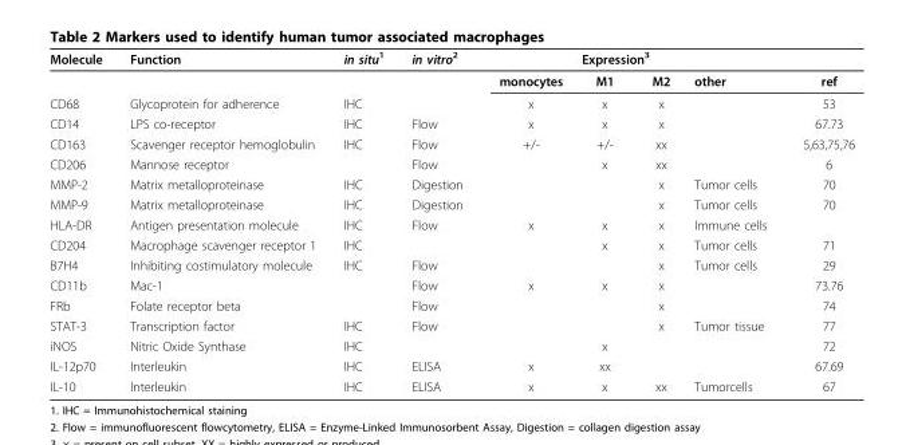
<table><thead><tr><td rowspan="2">Molecule</td><td rowspan="2">Function</td><td rowspan="2">in situ<sup>1</sup></td><td colspan="2">in vitro<sup>2</sup></td><td colspan="2">Expression<sup>3</sup></td><td rowspan="2">other</td><td rowspan="2">ref</td></tr><tr><td></td><td>monocytes</td><td>M1</td><td>M2</td></tr></thead><tbody><tr><td>CD68</td><td>Glycoprotein for adherence</td><td>IHC</td><td></td><td>x</td><td>x</td><td>x</td><td></td><td>53</td></tr><tr><td>CD14</td><td>LPS co-receptor</td><td>IHC</td><td>Flow</td><td>x</td><td>x</td><td>x</td><td></td><td>67.73</td></tr><tr><td>CD163</td><td>Scavenger receptor hemoglobulin</td><td>IHC</td><td>Flow</td><td>+/-</td><td>+/-</td><td>xx</td><td></td><td>5,63,75,76</td></tr><tr><td>CD206</td><td>Mannose receptor</td><td></td><td>Flow</td><td></td><td>x</td><td>xx</td><td></td><td>6</td></tr><tr><td>MMP-2</td><td>Matrix metalloproteinase</td><td>IHC</td><td>Digestion</td><td></td><td></td><td>x</td><td>Tumor cells</td><td>70</td></tr><tr><td>MMP-9</td><td>Matrix metalloproteinase</td><td>IHC</td><td>Digestion</td><td></td><td></td><td>x</td><td>Tumor cells</td><td>70</td></tr><tr><td>HLA-DR</td><td>Antigen presentation molecule</td><td>IHC</td><td>Flow</td><td>x</td><td>x</td><td>x</td><td>Immune cells</td><td></td></tr><tr><td>CD204</td><td>Macrophage scavenger receptor 1</td><td>IHC</td><td></td><td></td><td>x</td><td>x</td><td>Tumor cells</td><td>71</td></tr><tr><td>B7H4</td><td>Inhibiting costimulatory molecule</td><td>IHC</td><td>Flow</td><td></td><td></td><td>x</td><td>Tumor cells</td><td>29</td></tr><tr><td>CD11b</td><td>Mac-1</td><td></td><td>Flow</td><td>x</td><td>x</td><td>x</td><td></td><td>73.76</td></tr><tr><td>FRb</td><td>Folate receptor beta</td><td></td><td>Flow</td><td></td><td></td><td>x</td><td></td><td>74</td></tr><tr><td>STAT-3</td><td>Transcription factor</td><td>IHC</td><td>Flow</td><td></td><td></td><td>x</td><td>Tumor tissue</td><td>77</td></tr><tr><td>iNOS</td><td>Nitric Oxide Synthase</td><td>IHC</td><td></td><td></td><td>x</td><td></td><td></td><td>72</td></tr><tr><td>IL-12p70</td><td>Interleukin</td><td>IHC</td><td>ELISA</td><td>x</td><td>xx</td><td></td><td></td><td>67.69</td></tr><tr><td>IL-10</td><td>Interleukin</td><td>IHC</td><td>ELISA</td><td>x</td><td>x</td><td>xx</td><td>Tumorcells</td><td>67</td></tr></tbody></table>